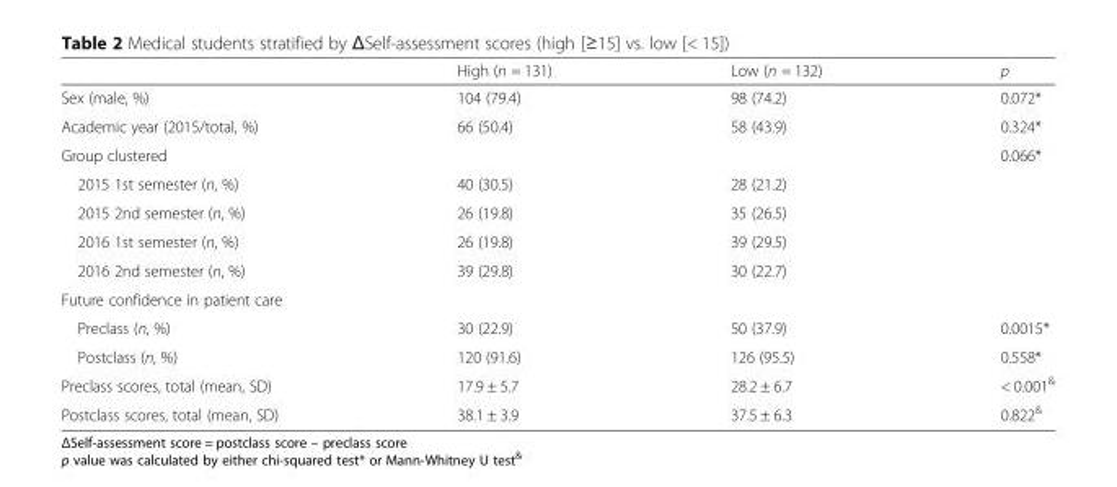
<table><thead><tr><td></td><td>High (n = 131)</td><td>Low (n = 132)</td><td>p</td></tr></thead><tbody><tr><td>Sex (male, %)</td><td>104 (79.4)</td><td>98 (74.2)</td><td>0.072*</td></tr><tr><td>Academic year (2015/total, %)</td><td>66 (50.4)</td><td>58 (43.9)</td><td>0.324*</td></tr><tr><td>Group clustered</td><td></td><td></td><td>0.066*</td></tr><tr><td>2015 1st semester (n, %)</td><td>40 (30.5)</td><td>28 (21.2)</td><td></td></tr><tr><td>2015 2nd semester (n, %)</td><td>26 (19.8)</td><td>35 (26.5)</td><td></td></tr><tr><td>2016 1st semester (n, %)</td><td>26 (19.8)</td><td>39 (29.5)</td><td></td></tr><tr><td>2016 2nd semester (n, %)</td><td>39 (29.8)</td><td>30 (22.7)</td><td></td></tr><tr><td colspan="4">Future confidence in patient care</td></tr><tr><td>Preclass (n, %)</td><td>30 (22.9)</td><td>50 (37.9)</td><td>0.0015*</td></tr><tr><td>Postclass (n, %)</td><td>120 (91.6)</td><td>126 (95.5)</td><td>0.558*</td></tr><tr><td>Preclass scores, total (mean, SD)</td><td>17.9 ± 5.7</td><td>28.2 ± 6.7</td><td>&lt; 0.001<sup>&amp;</sup></td></tr><tr><td>Postclass scores, total (mean, SD)</td><td>38.1 ± 3.9</td><td>37.5 ± 6.3</td><td>0.822<sup>&amp;</sup></td></tr></tbody></table>